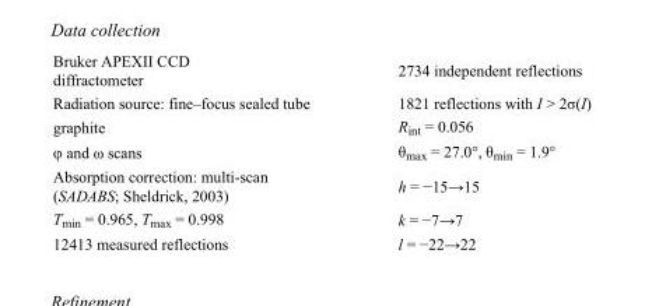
<table><tbody><tr><td>Bruker APEXII CCD diffractometer</td><td>2734 independent reflections</td></tr><tr><td>Radiation source: fine–focus sealed tube</td><td>1821 reflections with I &gt; 2σ(I)</td></tr><tr><td>graphite</td><td>R<sub>int</sub> = 0.056</td></tr><tr><td>φ and ω scans</td><td>θ<sub>max</sub> = 27.0°, θ<sub>min</sub> = 1.9°</td></tr><tr><td>Absorption correction: multi-scan (SADABS; Sheldrick, 2003)</td><td>h = −15→15</td></tr><tr><td>T<sub>min</sub> = 0.965, T<sub>max</sub> = 0.998</td><td>k = −7→7</td></tr><tr><td>12413 measured reflections</td><td>l = −22→22</td></tr></tbody></table>